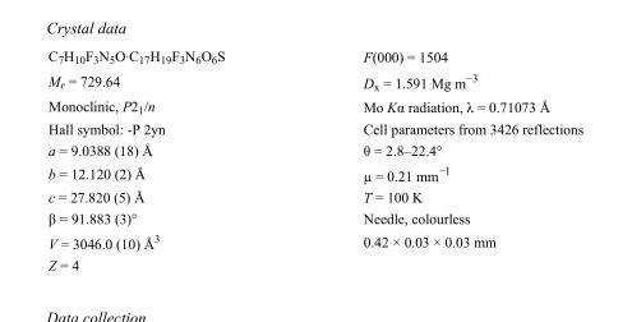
<table><tbody><tr><td>C<sub>7</sub>H<sub>10</sub>F<sub>3</sub>N<sub>5</sub>O·C<sub>17</sub>H<sub>19</sub>F<sub>3</sub>N<sub>6</sub>O<sub>6</sub>S</td><td>F(000) = 1504</td></tr><tr><td>M<sub>r</sub> = 729.64</td><td>D<sub>x</sub> = 1.591 Mg m<sup>−3</sup></td></tr><tr><td>Monoclinic, P2<sub>1</sub>/n</td><td>Mo Kα radiation, λ = 0.71073 Å</td></tr><tr><td>Hall symbol: -P 2yn</td><td>Cell parameters from 3426 reflections</td></tr><tr><td>a = 9.0388 (18) Å</td><td>θ = 2.8–22.4°</td></tr><tr><td>b = 12.120 (2) Å</td><td>µ = 0.21 mm<sup>−1</sup></td></tr><tr><td>c = 27.820 (5) Å</td><td>T = 100 K</td></tr><tr><td>β = 91.883 (3)°</td><td>Needle, colourless</td></tr><tr><td>V = 3046.0 (10) Å<sup>3</sup></td><td>0.42 × 0.03 × 0.03 mm</td></tr><tr><td>Z = 4</td><td></td></tr></tbody></table>